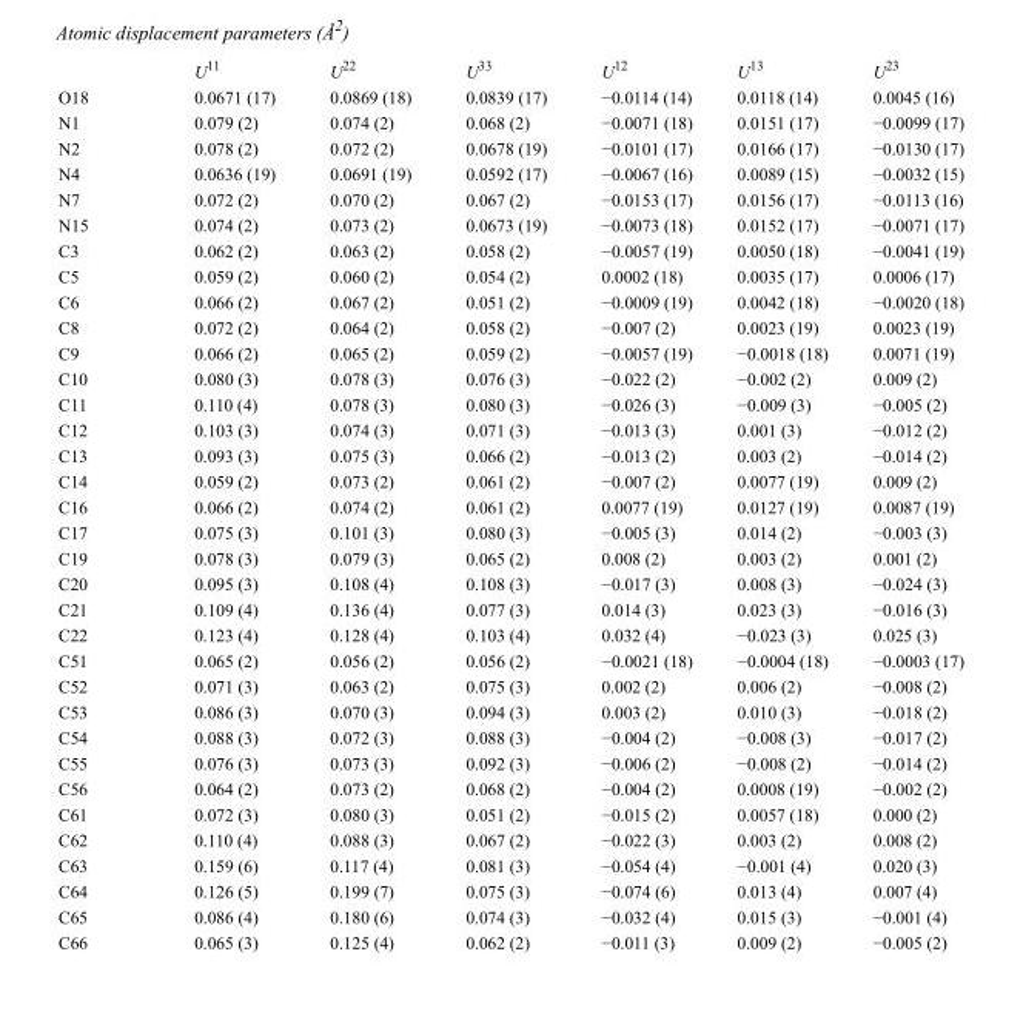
<table><thead><tr><td></td><td>U<sup>11</sup></td><td>U<sup>22</sup></td><td>U<sup>33</sup></td><td>U<sup>12</sup></td><td>U<sup>13</sup></td><td>U<sup>23</sup></td></tr></thead><tbody><tr><td>O18</td><td>0.0671 (17)</td><td>0.0869 (18)</td><td>0.0839 (17)</td><td>−0.0114 (14)</td><td>0.0118 (14)</td><td>0.0045 (16)</td></tr><tr><td>N1</td><td>0.079 (2)</td><td>0.074 (2)</td><td>0.068 (2)</td><td>−0.0071 (18)</td><td>0.0151 (17)</td><td>−0.0099 (17)</td></tr><tr><td>N2</td><td>0.078 (2)</td><td>0.072 (2)</td><td>0.0678 (19)</td><td>−0.0101 (17)</td><td>0.0166 (17)</td><td>−0.0130 (17)</td></tr><tr><td>N4</td><td>0.0636 (19)</td><td>0.0691 (19)</td><td>0.0592 (17)</td><td>−0.0067 (16)</td><td>0.0089 (15)</td><td>−0.0032 (15)</td></tr><tr><td>N7</td><td>0.072 (2)</td><td>0.070 (2)</td><td>0.067 (2)</td><td>−0.0153 (17)</td><td>0.0156 (17)</td><td>−0.0113 (16)</td></tr><tr><td>N15</td><td>0.074 (2)</td><td>0.073 (2)</td><td>0.0673 (19)</td><td>−0.0073 (18)</td><td>0.0152 (17)</td><td>−0.0071 (17)</td></tr><tr><td>C3</td><td>0.062 (2)</td><td>0.063 (2)</td><td>0.058 (2)</td><td>−0.0057 (19)</td><td>0.0050 (18)</td><td>−0.0041 (19)</td></tr><tr><td>C5</td><td>0.059 (2)</td><td>0.060 (2)</td><td>0.054 (2)</td><td>0.0002 (18)</td><td>0.0035 (17)</td><td>0.0006 (17)</td></tr><tr><td>C6</td><td>0.066 (2)</td><td>0.067 (2)</td><td>0.051 (2)</td><td>−0.0009 (19)</td><td>0.0042 (18)</td><td>−0.0020 (18)</td></tr><tr><td>C8</td><td>0.072 (2)</td><td>0.064 (2)</td><td>0.058 (2)</td><td>−0.007 (2)</td><td>0.0023 (19)</td><td>0.0023 (19)</td></tr><tr><td>C9</td><td>0.066 (2)</td><td>0.065 (2)</td><td>0.059 (2)</td><td>−0.0057 (19)</td><td>−0.0018 (18)</td><td>0.0071 (19)</td></tr><tr><td>C10</td><td>0.080 (3)</td><td>0.078 (3)</td><td>0.076 (3)</td><td>−0.022 (2)</td><td>−0.002 (2)</td><td>0.009 (2)</td></tr><tr><td>C11</td><td>0.110 (4)</td><td>0.078 (3)</td><td>0.080 (3)</td><td>−0.026 (3)</td><td>−0.009 (3)</td><td>−0.005 (2)</td></tr><tr><td>C12</td><td>0.103 (3)</td><td>0.074 (3)</td><td>0.071 (3)</td><td>−0.013 (3)</td><td>0.001 (3)</td><td>−0.012 (2)</td></tr><tr><td>C13</td><td>0.093 (3)</td><td>0.075 (3)</td><td>0.066 (2)</td><td>−0.013 (2)</td><td>0.003 (2)</td><td>−0.014 (2)</td></tr><tr><td>C14</td><td>0.059 (2)</td><td>0.073 (2)</td><td>0.061 (2)</td><td>−0.007 (2)</td><td>0.0077 (19)</td><td>0.009 (2)</td></tr><tr><td>C16</td><td>0.066 (2)</td><td>0.074 (2)</td><td>0.061 (2)</td><td>0.0077 (19)</td><td>0.0127 (19)</td><td>0.0087 (19)</td></tr><tr><td>C17</td><td>0.075 (3)</td><td>0.101 (3)</td><td>0.080 (3)</td><td>−0.005 (3)</td><td>0.014 (2)</td><td>−0.003 (3)</td></tr><tr><td>C19</td><td>0.078 (3)</td><td>0.079 (3)</td><td>0.065 (2)</td><td>0.008 (2)</td><td>0.003 (2)</td><td>0.001 (2)</td></tr><tr><td>C20</td><td>0.095 (3)</td><td>0.108 (4)</td><td>0.108 (3)</td><td>−0.017 (3)</td><td>0.008 (3)</td><td>−0.024 (3)</td></tr><tr><td>C21</td><td>0.109 (4)</td><td>0.136 (4)</td><td>0.077 (3)</td><td>0.014 (3)</td><td>0.023 (3)</td><td>−0.016 (3)</td></tr><tr><td>C22</td><td>0.123 (4)</td><td>0.128 (4)</td><td>0.103 (4)</td><td>0.032 (4)</td><td>−0.023 (3)</td><td>0.025 (3)</td></tr><tr><td>C51</td><td>0.065 (2)</td><td>0.056 (2)</td><td>0.056 (2)</td><td>−0.0021 (18)</td><td>−0.0004 (18)</td><td>−0.0003 (17)</td></tr><tr><td>C52</td><td>0.071 (3)</td><td>0.063 (2)</td><td>0.075 (3)</td><td>0.002 (2)</td><td>0.006 (2)</td><td>−0.008 (2)</td></tr><tr><td>C53</td><td>0.086 (3)</td><td>0.070 (3)</td><td>0.094 (3)</td><td>0.003 (2)</td><td>0.010 (3)</td><td>−0.018 (2)</td></tr><tr><td>C54</td><td>0.088 (3)</td><td>0.072 (3)</td><td>0.088 (3)</td><td>−0.004 (2)</td><td>−0.008 (3)</td><td>−0.017 (2)</td></tr><tr><td>C55</td><td>0.076 (3)</td><td>0.073 (3)</td><td>0.092 (3)</td><td>−0.006 (2)</td><td>−0.008 (2)</td><td>−0.014 (2)</td></tr><tr><td>C56</td><td>0.064 (2)</td><td>0.073 (2)</td><td>0.068 (2)</td><td>−0.004 (2)</td><td>0.0008 (19)</td><td>−0.002 (2)</td></tr><tr><td>C61</td><td>0.072 (3)</td><td>0.080 (3)</td><td>0.051 (2)</td><td>−0.015 (2)</td><td>0.0057 (18)</td><td>0.000 (2)</td></tr><tr><td>C62</td><td>0.110 (4)</td><td>0.088 (3)</td><td>0.067 (2)</td><td>−0.022 (3)</td><td>0.003 (2)</td><td>0.008 (2)</td></tr><tr><td>C63</td><td>0.159 (6)</td><td>0.117 (4)</td><td>0.081 (3)</td><td>−0.054 (4)</td><td>−0.001 (4)</td><td>0.020 (3)</td></tr><tr><td>C64</td><td>0.126 (5)</td><td>0.199 (7)</td><td>0.075 (3)</td><td>−0.074 (6)</td><td>0.013 (4)</td><td>0.007 (4)</td></tr><tr><td>C65</td><td>0.086 (4)</td><td>0.180 (6)</td><td>0.074 (3)</td><td>−0.032 (4)</td><td>0.015 (3)</td><td>−0.001 (4)</td></tr><tr><td>C66</td><td>0.065 (3)</td><td>0.125 (4)</td><td>0.062 (2)</td><td>−0.011 (3)</td><td>0.009 (2)</td><td>−0.005 (2)</td></tr></tbody></table>